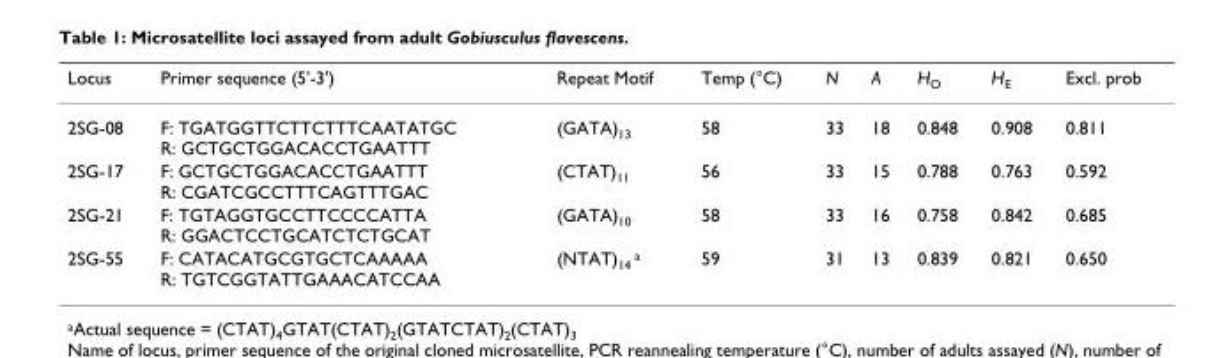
<table><thead><tr><td>Locus</td><td>Primer sequence (5&#x27;-3&#x27;)</td><td>Repeat Motif</td><td>Temp (°C)</td><td>N</td><td>A</td><td>H<sub>O</sub></td><td>H<sub>E</sub></td><td>Excl. prob</td></tr></thead><tbody><tr><td>2SG-08</td><td>F: TGATGGTTCTTCTTTCAATATGC R: GCTGCTGGACACCTGAATTT</td><td>(GATA)<sub>13</sub></td><td>58</td><td>33</td><td>18</td><td>0.848</td><td>0.908</td><td>0.811</td></tr><tr><td>2SG-17</td><td>F: GCTGCTGGACACCTGAATTT R: CGATCGCCTTTCAGTTTGAC</td><td>(CTAT)<sub>11</sub></td><td>56</td><td>33</td><td>15</td><td>0.788</td><td>0.763</td><td>0.592</td></tr><tr><td>2SG-21</td><td>F: TGTAGGTGCCTTCCCCATTA R: GGACTCCTGCATCTCTGCAT</td><td>(GATA)<sub>10</sub></td><td>58</td><td>33</td><td>16</td><td>0.758</td><td>0.842</td><td>0.685</td></tr><tr><td>2SG-55</td><td>F: CATACATGCGTGCTCAAAAA R: TGTCGGTATTGAAACATCCAA</td><td>(NTAT)<sub>14</sub> <sup>a</sup></td><td>59</td><td>31</td><td>13</td><td>0.839</td><td>0.821</td><td>0.650</td></tr></tbody></table>